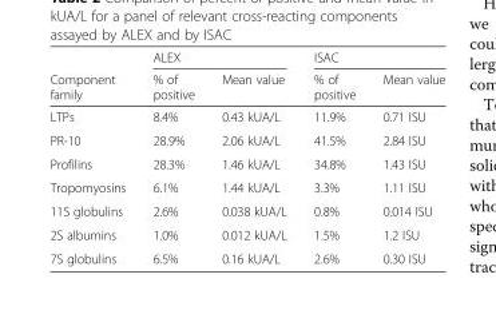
<table><thead><tr><td rowspan="2">Component family</td><td colspan="2">ALEX</td><td colspan="2">ISAC</td></tr><tr><td>% of positive</td><td>Mean value</td><td>% of positive</td><td>Mean value</td></tr></thead><tbody><tr><td>LTPs</td><td>8.4%</td><td>0.43 kUA/L</td><td>11.9%</td><td>0.71 ISU</td></tr><tr><td>PR-10</td><td>28.9%</td><td>2.06 kUA/L</td><td>41.5%</td><td>2.84 ISU</td></tr><tr><td>Profilins</td><td>28.3%</td><td>1.46 kUA/L</td><td>34.8%</td><td>1.43 ISU</td></tr><tr><td>Tropomyosins</td><td>6.1%</td><td>1.44 kUA/L</td><td>3.3%</td><td>1.11 ISU</td></tr><tr><td>11S globulins</td><td>2.6%</td><td>0.038 kUA/L</td><td>0.8%</td><td>0.014 ISU</td></tr><tr><td>2S albumins</td><td>1.0%</td><td>0.012 kUA/L</td><td>1.5%</td><td>1.2 ISU</td></tr><tr><td>7S globulins</td><td>6.5%</td><td>0.16 kUA/L</td><td>2.6%</td><td>0.30 ISU</td></tr></tbody></table>